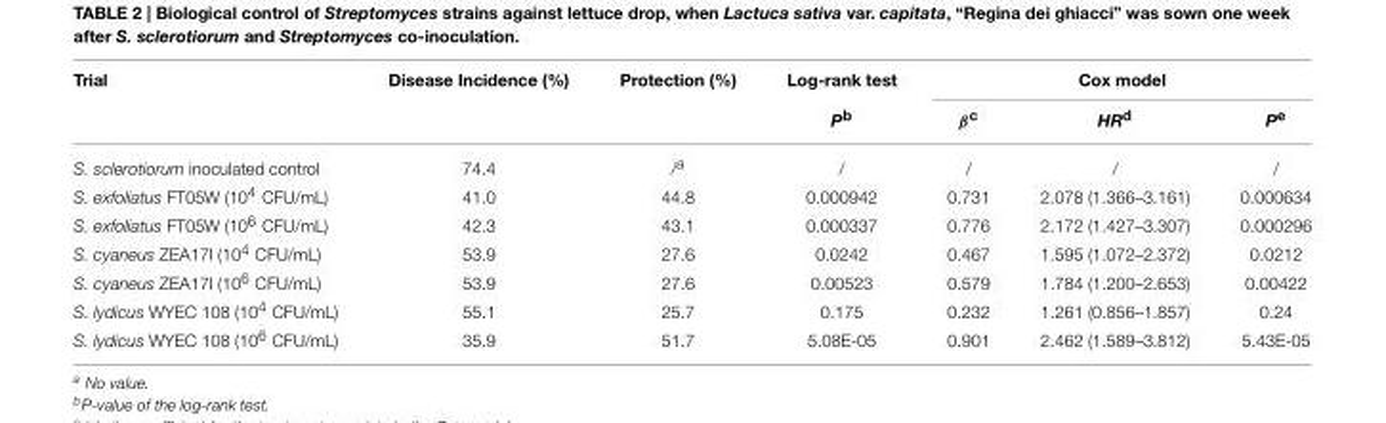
<table><thead><tr><td rowspan="2">Trial</td><td rowspan="2">Disease Incidence (%)</td><td rowspan="2">Protection (%)</td><td rowspan="2">Log-rank test P<sup>b</sup></td><td colspan="3">Cox model</td></tr><tr><td>β<sup>c</sup></td><td>HR<sup>d</sup></td><td>P<sup>e</sup></td></tr></thead><tbody><tr><td>S. sclerotiorum inoculated control</td><td>74.4</td><td>/<sup>a</sup></td><td>/</td><td>/</td><td>/</td><td>/</td></tr><tr><td>S. exfoliatus FT05W (10<sup>4</sup> CFU/mL)</td><td>41.0</td><td>44.8</td><td>0.000942</td><td>0.731</td><td>2.078 (1.366–3.161)</td><td>0.000634</td></tr><tr><td>S. exfoliatus FT05W (10<sup>6</sup> CFU/mL)</td><td>42.3</td><td>43.1</td><td>0.000337</td><td>0.776</td><td>2.172 (1.427–3.307)</td><td>0.000296</td></tr><tr><td>S. cyaneus ZEA17I (10<sup>4</sup> CFU/mL)</td><td>53.9</td><td>27.6</td><td>0.0242</td><td>0.467</td><td>1.595 (1.072–2.372)</td><td>0.0212</td></tr><tr><td>S. cyaneus ZEA17I (10<sup>6</sup> CFU/mL)</td><td>53.9</td><td>27.6</td><td>0.00523</td><td>0.579</td><td>1.784 (1.200–2.653)</td><td>0.00422</td></tr><tr><td>S. lydicus WYEC 108 (10<sup>4</sup> CFU/mL)</td><td>55.1</td><td>25.7</td><td>0.175</td><td>0.232</td><td>1.261 (0.856–1.857)</td><td>0.24</td></tr><tr><td>S. lydicus WYEC 108 (10<sup>6</sup> CFU/mL)</td><td>35.9</td><td>51.7</td><td>5.08E-05</td><td>0.901</td><td>2.462 (1.589–3.812)</td><td>5.43E-05</td></tr></tbody></table>